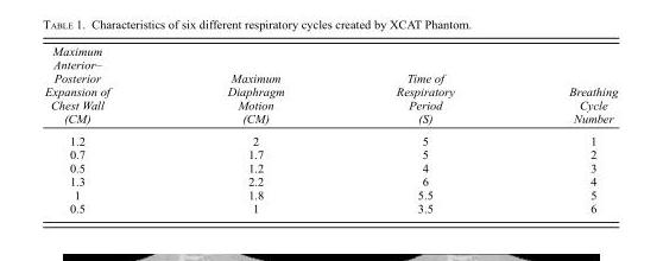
<table><thead><tr><td>Maximum Anterior– Posterior Expansion of Chest Wall (CM)</td><td>Maximum Diaphragm Motion (CM)</td><td>Time of Respiratory Period (S)</td><td>Breathing Cycle Number</td></tr></thead><tbody><tr><td>1.2</td><td>2</td><td>5</td><td>1</td></tr><tr><td>0.7</td><td>1.7</td><td>5</td><td>2</td></tr><tr><td>0.5</td><td>1.2</td><td>4</td><td>3</td></tr><tr><td>1.3</td><td>2.2</td><td>6</td><td>4</td></tr><tr><td>1</td><td>1.8</td><td>5.5</td><td>5</td></tr><tr><td>0.5</td><td>1</td><td>3.5</td><td>6</td></tr></tbody></table>